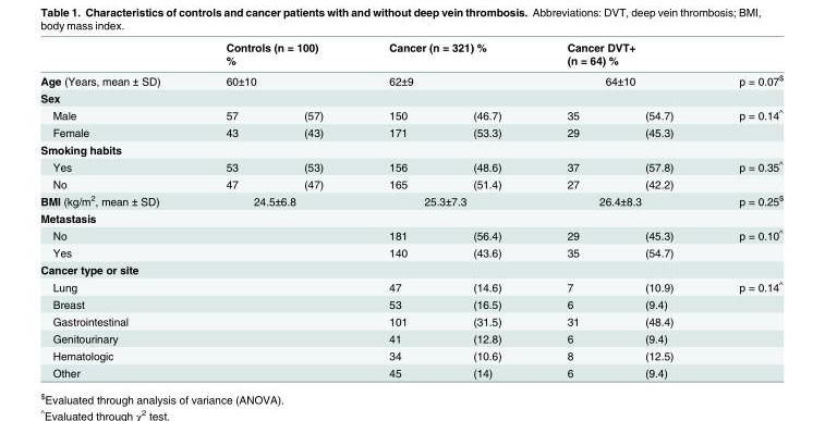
<table><thead><tr><td rowspan="3">Age (Years, mean ± SD) Sex</td><td rowspan="2" colspan="2">Controls (n = 100) % 60±10</td><td rowspan="2" colspan="2">Cancer (n = 321) % 62±9</td><td rowspan="2" colspan="2">Cancer DVT+ (n = 64) % 64±10</td><td rowspan="3">p = 0.07<sup>$</sup></td></tr><tr></tr><tr><td></td><td></td><td></td><td></td><td></td><td></td></tr></thead><tbody><tr><td>Male</td><td>57</td><td>(57)</td><td>150</td><td>(46.7)</td><td>35</td><td>(54.7)</td><td>p = 0.14<sup>^</sup></td></tr><tr><td>Female</td><td>43</td><td>(43)</td><td>171</td><td>(53.3)</td><td>29</td><td>(45.3)</td><td></td></tr><tr><td colspan="8">Smoking habits</td></tr><tr><td>Yes</td><td>53</td><td>(53)</td><td>156</td><td>(48.6)</td><td>37</td><td>(57.8)</td><td>p = 0.35<sup>^</sup></td></tr><tr><td>No</td><td>47</td><td>(47)</td><td>165</td><td>(51.4)</td><td>27</td><td>(42.2)</td><td></td></tr><tr><td>BMI (kg/m<sup>2</sup>, mean ± SD)</td><td colspan="2">24.5±6.8</td><td colspan="2">25.3±7.3</td><td colspan="2">26.4±8.3</td><td>p = 0.25<sup>$</sup></td></tr><tr><td colspan="8">Metastasis</td></tr><tr><td>No</td><td></td><td></td><td>181</td><td>(56.4)</td><td>29</td><td>(45.3)</td><td>p = 0.10<sup>^</sup></td></tr><tr><td>Yes</td><td></td><td></td><td>140</td><td>(43.6)</td><td>35</td><td>(54.7)</td><td></td></tr><tr><td colspan="8">Cancer type or site</td></tr><tr><td>Lung</td><td></td><td></td><td>47</td><td>(14.6)</td><td>7</td><td>(10.9)</td><td>p = 0.14<sup>^</sup></td></tr><tr><td>Breast</td><td></td><td></td><td>53</td><td>(16.5)</td><td>6</td><td>(9.4)</td><td></td></tr><tr><td>Gastrointestinal</td><td></td><td></td><td>101</td><td>(31.5)</td><td>31</td><td>(48.4)</td><td></td></tr><tr><td>Genitourinary</td><td></td><td></td><td>41</td><td>(12.8)</td><td>6</td><td>(9.4)</td><td></td></tr><tr><td>Hematologic</td><td></td><td></td><td>34</td><td>(10.6)</td><td>8</td><td>(12.5)</td><td></td></tr><tr><td>Other</td><td></td><td></td><td>45</td><td>(14)</td><td>6</td><td>(9.4)</td><td></td></tr></tbody></table>